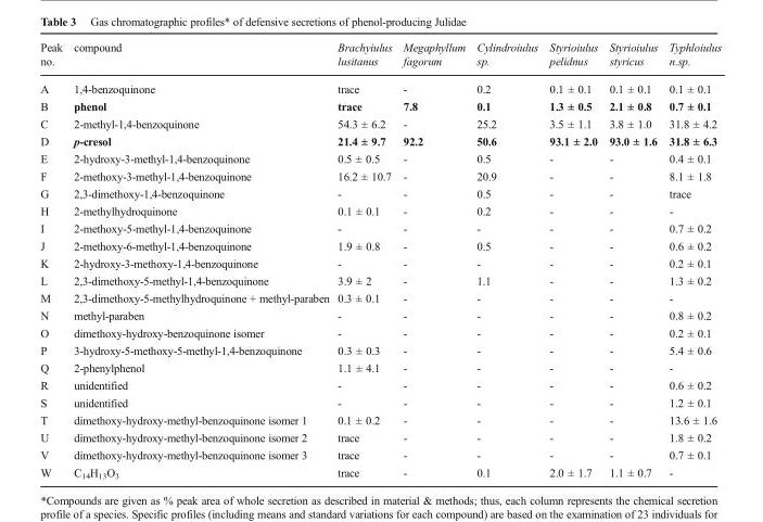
<table><thead><tr><td>Peak no.</td><td>compound</td><td>Brachyiulus lusitanus</td><td>Megaphyllum fagorum</td><td>Cylindroiulus sp.</td><td>Styrioiulus pelidnus</td><td>Styrioiulus styricus</td><td>Typhloiulus n.sp.</td></tr></thead><tbody><tr><td>A</td><td>1,4-benzoquinone</td><td>trace</td><td>-</td><td>0.2</td><td>0.1 ± 0.1</td><td>0.1 ± 0.1</td><td>0.1 ± 0.1</td></tr><tr><td>B</td><td>phenol</td><td>trace</td><td>7.8</td><td>0.1</td><td>1.3 ± 0.5</td><td>2.1 ± 0.8</td><td>0.7 ± 0.1</td></tr><tr><td>C</td><td>2-methyl-1,4-benzoquinone</td><td>54.3 ± 6.2</td><td>-</td><td>25.2</td><td>3.5 ± 1.1</td><td>3.8 ± 1.0</td><td>31.8 ± 4.2</td></tr><tr><td>D</td><td>p-cresol</td><td>21.4 ± 9.7</td><td>92.2</td><td>50.6</td><td>93.1 ± 2.0</td><td>93.0 ± 1.6</td><td>31.8 ± 6.3</td></tr><tr><td>E</td><td>2-hydroxy-3-methyl-1,4-benzoquinone</td><td>0.5 ± 0.5</td><td>-</td><td>0.5</td><td>-</td><td>-</td><td>0.4 ± 0.1</td></tr><tr><td>F</td><td>2-methoxy-3-methyl-1,4-benzoquinone</td><td>16.2 ± 10.7</td><td>-</td><td>20.9</td><td>-</td><td>-</td><td>8.1 ± 1.8</td></tr><tr><td>G</td><td>2,3-dimethoxy-1,4-benzoquinone</td><td>-</td><td>-</td><td>0.5</td><td>-</td><td>-</td><td>trace</td></tr><tr><td>H</td><td>2-methylhydroquinone</td><td>0.1 ± 0.1</td><td>-</td><td>0.2</td><td>-</td><td>-</td><td>-</td></tr><tr><td>I</td><td>2-methoxy-5-methyl-1,4-benzoquinone</td><td>-</td><td>-</td><td>-</td><td>-</td><td>-</td><td>0.7 ± 0.2</td></tr><tr><td>J</td><td>2-methoxy-6-methyl-1,4-benzoquinone</td><td>1.9 ± 0.8</td><td>-</td><td>0.5</td><td>-</td><td>-</td><td>0.6 ± 0.2</td></tr><tr><td>K</td><td>2-hydroxy-3-methoxy-1,4-benzoquinone</td><td>-</td><td>-</td><td>-</td><td>-</td><td>-</td><td>0.2 ± 0.1</td></tr><tr><td>L</td><td>2,3-dimethoxy-5-methyl-1,4-benzoquinone</td><td>3.9 ± 2</td><td>-</td><td>1.1</td><td>-</td><td>-</td><td>1.3 ± 0.2</td></tr><tr><td>M</td><td>2,3-dimethoxy-5-methylhydroquinone + methyl-paraben</td><td>0.3 ± 0.1</td><td>-</td><td>-</td><td>-</td><td>-</td><td>-</td></tr><tr><td>N</td><td>methyl-paraben</td><td>-</td><td>-</td><td>-</td><td>-</td><td>-</td><td>0.8 ± 0.2</td></tr><tr><td>O</td><td>dimethoxy-hydroxy-benzoquinone isomer</td><td>-</td><td>-</td><td>-</td><td>-</td><td>-</td><td>0.2 ± 0.1</td></tr><tr><td>P</td><td>3-hydroxy-5-methoxy-5-methyl-1,4-benzoquinone</td><td>0.3 ± 0.3</td><td>-</td><td>-</td><td>-</td><td>-</td><td>5.4 ± 0.6</td></tr><tr><td>Q</td><td>2-phenylphenol</td><td>1.1 ± 4.1</td><td>-</td><td>-</td><td>-</td><td>-</td><td>-</td></tr><tr><td>R</td><td>unidentified</td><td>-</td><td>-</td><td>-</td><td>-</td><td>-</td><td>0.6 ± 0.2</td></tr><tr><td>S</td><td>unidentified</td><td>-</td><td>-</td><td>-</td><td>-</td><td>-</td><td>1.2 ± 0.1</td></tr><tr><td>T</td><td>dimethoxy-hydroxy-methyl-benzoquinone isomer 1</td><td>0.1 ± 0.2</td><td>-</td><td>-</td><td>-</td><td>-</td><td>13.6 ± 1.6</td></tr><tr><td>U</td><td>dimethoxy-hydroxy-methyl-benzoquinone isomer 2</td><td>trace</td><td>-</td><td>-</td><td>-</td><td>-</td><td>1.8 ± 0.2</td></tr><tr><td>V</td><td>dimethoxy-hydroxy-methyl-benzoquinone isomer 3</td><td>trace</td><td>-</td><td>-</td><td>-</td><td>-</td><td>0.7 ± 0.1</td></tr><tr><td>W</td><td>C<sub>14</sub>H<sub>13</sub>O<sub>3</sub></td><td>trace</td><td>-</td><td>0.1</td><td>2.0 ± 1.7</td><td>1.1 ± 0.7</td><td>-</td></tr></tbody></table>